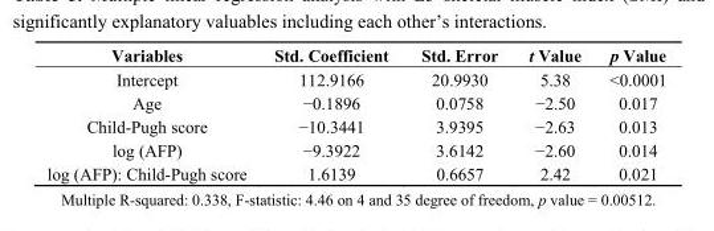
<table><thead><tr><td>Variables</td><td>Std. Coefficient</td><td>Std. Error</td><td>t Value</td><td>p Value</td></tr></thead><tbody><tr><td>Intercept</td><td>112.9166</td><td>20.9930</td><td>5.38</td><td>&lt;0.0001</td></tr><tr><td>Age</td><td>−0.1896</td><td>0.0758</td><td>−2.50</td><td>0.017</td></tr><tr><td>Child-Pugh score</td><td>−10.3441</td><td>3.9395</td><td>−2.63</td><td>0.013</td></tr><tr><td>log (AFP)</td><td>−9.3922</td><td>3.6142</td><td>−2.60</td><td>0.014</td></tr><tr><td>log (AFP): Child-Pugh score</td><td>1.6139</td><td>0.6657</td><td>2.42</td><td>0.021</td></tr></tbody></table>